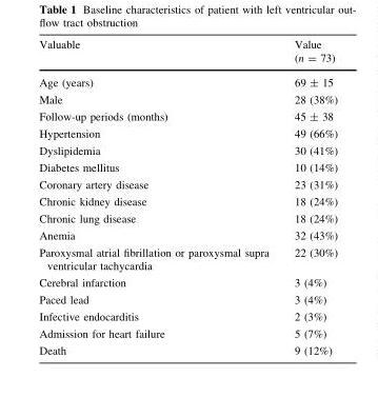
<table><thead><tr><td>Valuable</td><td>Value (n = 73)</td></tr></thead><tbody><tr><td>Age (years)</td><td>69 ± 15</td></tr><tr><td>Male</td><td>28 (38%)</td></tr><tr><td>Follow-up periods (months)</td><td>45 ± 38</td></tr><tr><td>Hypertension</td><td>49 (66%)</td></tr><tr><td>Dyslipidemia</td><td>30 (41%)</td></tr><tr><td>Diabetes mellitus</td><td>10 (14%)</td></tr><tr><td>Coronary artery disease</td><td>23 (31%)</td></tr><tr><td>Chronic kidney disease</td><td>18 (24%)</td></tr><tr><td>Chronic lung disease</td><td>18 (24%)</td></tr><tr><td>Anemia</td><td>32 (43%)</td></tr><tr><td>Paroxysmal atrial fibrillation or paroxysmal supra ventricular tachycardia</td><td>22 (30%)</td></tr><tr><td>Cerebral infarction</td><td>3 (4%)</td></tr><tr><td>Paced lead</td><td>3 (4%)</td></tr><tr><td>Infective endocarditis</td><td>2 (3%)</td></tr><tr><td>Admission for heart failure</td><td>5 (7%)</td></tr><tr><td>Death</td><td>9 (12%)</td></tr></tbody></table>